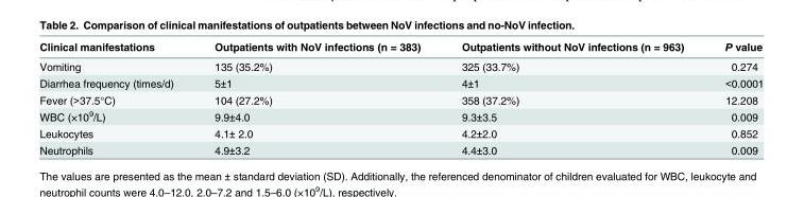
<table><thead><tr><td>Clinical manifestations</td><td>Outpatients with NoV infections (n = 383)</td><td>Outpatients without NoV infections (n = 963)</td><td>P value</td></tr></thead><tbody><tr><td>Vomiting</td><td>135 (35.2%)</td><td>325 (33.7%)</td><td>0.274</td></tr><tr><td>Diarrhea frequency (times/d)</td><td>5±1</td><td>4±1</td><td>&lt;0.0001</td></tr><tr><td>Fever (&gt;37.5°C)</td><td>104 (27.2%)</td><td>358 (37.2%)</td><td>12.208</td></tr><tr><td>WBC (×10<sup>9</sup>/L)</td><td>9.9±4.0</td><td>9.3±3.5</td><td>0.009</td></tr><tr><td>Leukocytes</td><td>4.1± 2.0</td><td>4.2±2.0</td><td>0.852</td></tr><tr><td>Neutrophils</td><td>4.9±3.2</td><td>4.4±3.0</td><td>0.009</td></tr></tbody></table>